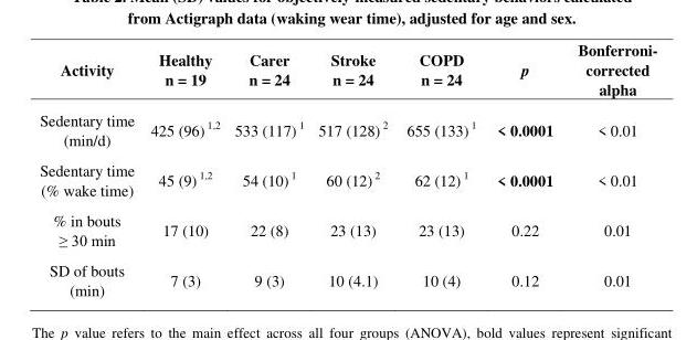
<table><thead><tr><td>Activity</td><td>Healthy n = 19</td><td>Carer n = 24</td><td>Stroke n = 24</td><td>COPD n = 24</td><td>p</td><td>Bonferroni- corrected alpha</td></tr></thead><tbody><tr><td>Sedentary time (min/d)</td><td>425 (96) <sup>1,2</sup></td><td>533 (117) <sup>1</sup></td><td>517 (128) <sup>2</sup></td><td>655 (133) <sup>1</sup></td><td>&lt; 0.0001</td><td>&lt; 0.01</td></tr><tr><td>Sedentary time (% wake time)</td><td>45 (9) <sup>1,2</sup></td><td>54 (10) <sup>1</sup></td><td>60 (12) <sup>2</sup></td><td>62 (12) <sup>1</sup></td><td>&lt; 0.0001</td><td>&lt; 0.01</td></tr><tr><td>% in bouts ≥ 30 min</td><td>17 (10)</td><td>22 (8)</td><td>23 (13)</td><td>23 (13)</td><td>0.22</td><td>0.01</td></tr><tr><td>SD of bouts (min)</td><td>7 (3)</td><td>9 (3)</td><td>10 (4.1)</td><td>10 (4)</td><td>0.12</td><td>0.01</td></tr></tbody></table>